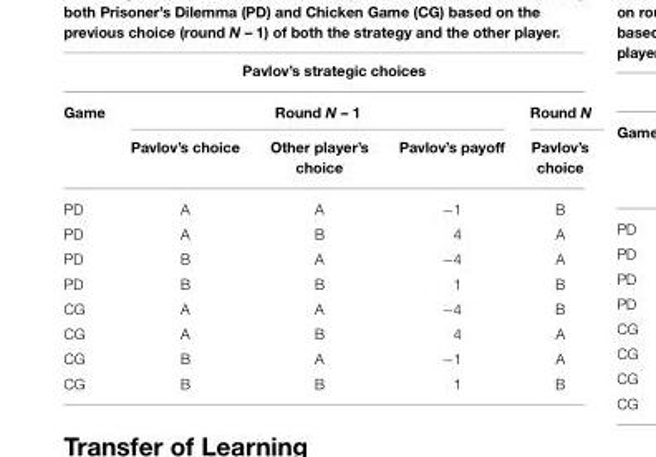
<table><thead><tr><td colspan="5">Pavlov’s strategic choices</td></tr><tr><td rowspan="2">Game</td><td colspan="3">Round N – 1</td><td rowspan="2">Round N Pavlov’s choice</td></tr><tr><td>Pavlov’s choice</td><td>Other player’s choice</td><td>Pavlov’s payoff</td></tr></thead><tbody><tr><td>PD</td><td>A</td><td>A</td><td>−1</td><td>B</td></tr><tr><td>PD</td><td>A</td><td>B</td><td>4</td><td>A</td></tr><tr><td>PD</td><td>B</td><td>A</td><td>−4</td><td>A</td></tr><tr><td>PD</td><td>B</td><td>B</td><td>1</td><td>B</td></tr><tr><td>CG</td><td>A</td><td>A</td><td>−4</td><td>B</td></tr><tr><td>CG</td><td>A</td><td>B</td><td>4</td><td>A</td></tr><tr><td>CG</td><td>B</td><td>A</td><td>−1</td><td>A</td></tr><tr><td>CG</td><td>B</td><td>B</td><td>1</td><td>B</td></tr></tbody></table>